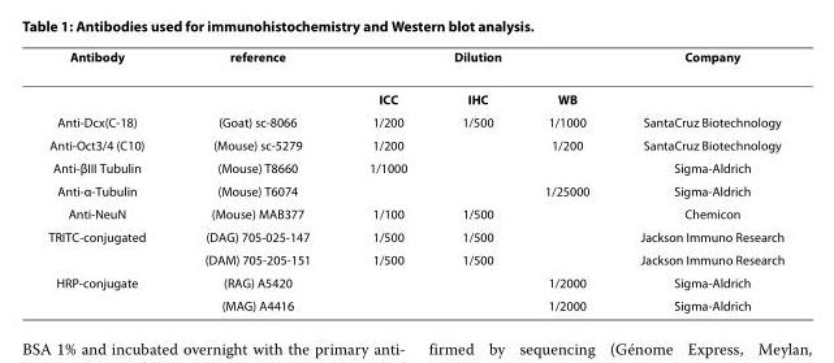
<table><thead><tr><td rowspan="2">Antibody</td><td rowspan="2">reference</td><td colspan="3">Dilution</td><td rowspan="2">Company</td></tr><tr><td>ICC</td><td>IHC</td><td>WB</td></tr></thead><tbody><tr><td>Anti-Dcx(C-18)</td><td>(Goat) sc-8066</td><td>1/200</td><td>1/500</td><td>1/1000</td><td>SantaCruz Biotechnology</td></tr><tr><td>Anti-Oct3/4 (C10)</td><td>(Mouse) sc-5279</td><td>1/200</td><td></td><td>1/200</td><td>SantaCruz Biotechnology</td></tr><tr><td>Anti-βIII Tubulin</td><td>(Mouse) T8660</td><td>1/1000</td><td></td><td></td><td>Sigma-Aldrich</td></tr><tr><td>Anti-α-Tubulin</td><td>(Mouse) T6074</td><td></td><td></td><td>1/25000</td><td>Sigma-Aldrich</td></tr><tr><td>Anti-NeuN</td><td>(Mouse) MAB377</td><td>1/100</td><td>1/500</td><td></td><td>Chemicon</td></tr><tr><td rowspan="2">TRITC-conjugated</td><td>(DAG) 705-025-147</td><td>1/500</td><td>1/500</td><td></td><td>Jackson Immuno Research</td></tr><tr><td>(DAM) 705-205-151</td><td>1/500</td><td>1/500</td><td></td><td>Jackson Immuno Research</td></tr><tr><td rowspan="2">HRP-conjugate</td><td>(RAG) A5420</td><td></td><td></td><td>1/2000</td><td>Sigma-Aldrich</td></tr><tr><td>(MAG) A4416</td><td></td><td></td><td>1/2000</td><td>Sigma-Aldrich</td></tr></tbody></table>